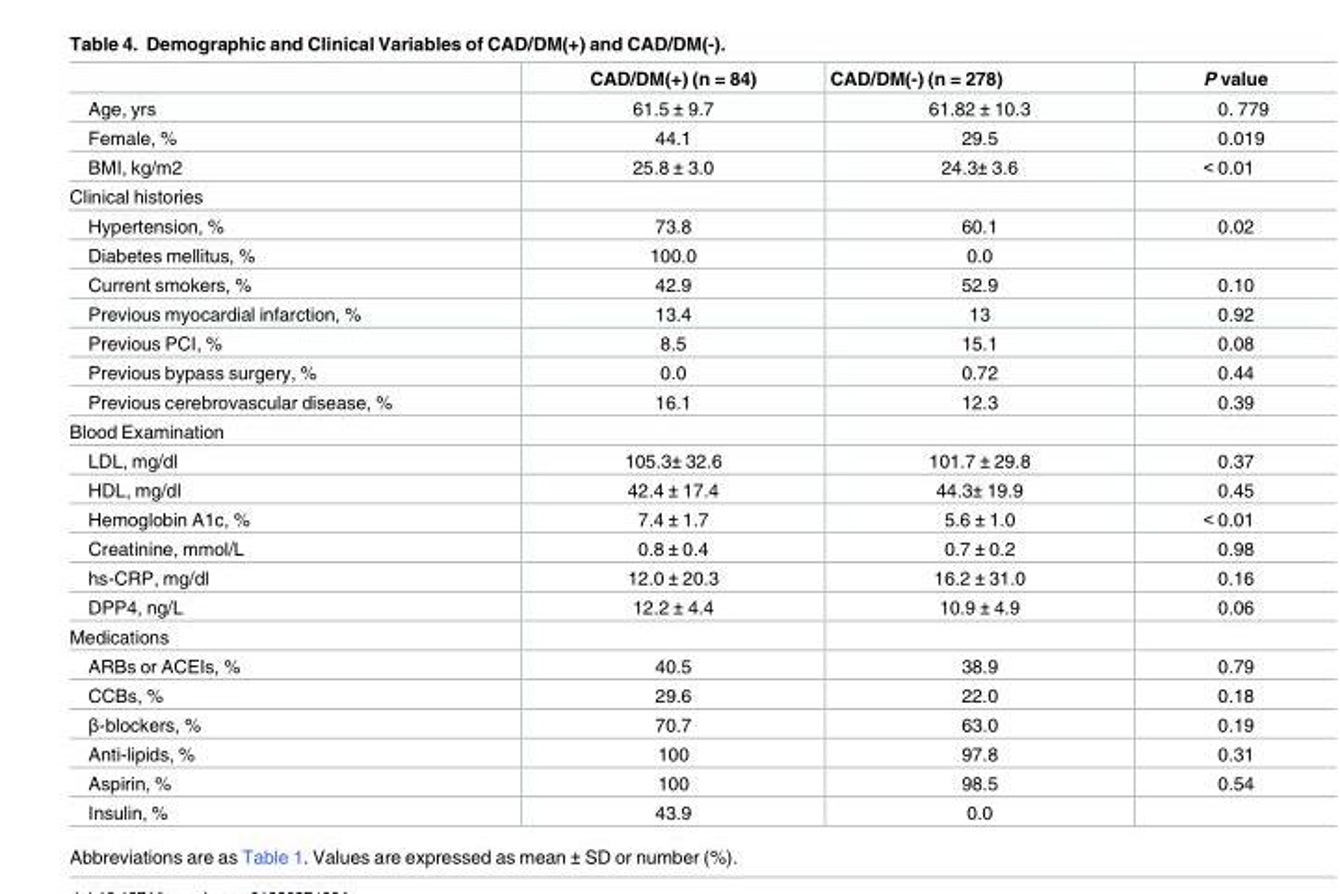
<table><thead><tr><td></td><td>CAD/DM(+) (n = 84)</td><td>CAD/DM(-) (n = 278)</td><td>P value</td></tr></thead><tbody><tr><td>Age, yrs</td><td>61.5 ± 9.7</td><td>61.82 ± 10.3</td><td>0. 779</td></tr><tr><td>Female, %</td><td>44.1</td><td>29.5</td><td>0.019</td></tr><tr><td>BMI, kg/m2</td><td>25.8 ± 3.0</td><td>24.3± 3.6</td><td>&lt; 0.01</td></tr><tr><td colspan="4">Clinical histories</td></tr><tr><td>Hypertension, %</td><td>73.8</td><td>60.1</td><td>0.02</td></tr><tr><td>Diabetes mellitus, %</td><td>100.0</td><td>0.0</td><td></td></tr><tr><td>Current smokers, %</td><td>42.9</td><td>52.9</td><td>0.10</td></tr><tr><td>Previous myocardial infarction, %</td><td>13.4</td><td>13</td><td>0.92</td></tr><tr><td>Previous PCI, %</td><td>8.5</td><td>15.1</td><td>0.08</td></tr><tr><td>Previous bypass surgery, %</td><td>0.0</td><td>0.72</td><td>0.44</td></tr><tr><td>Previous cerebrovascular disease, %</td><td>16.1</td><td>12.3</td><td>0.39</td></tr><tr><td colspan="4">Blood Examination</td></tr><tr><td>LDL, mg/dl</td><td>105.3± 32.6</td><td>101.7 ± 29.8</td><td>0.37</td></tr><tr><td>HDL, mg/dl</td><td>42.4 ± 17.4</td><td>44.3± 19.9</td><td>0.45</td></tr><tr><td>Hemoglobin A1c, %</td><td>7.4 ± 1.7</td><td>5.6 ± 1.0</td><td>&lt; 0.01</td></tr><tr><td>Creatinine, mmol/L</td><td>0.8 ± 0.4</td><td>0.7 ± 0.2</td><td>0.98</td></tr><tr><td>hs-CRP, mg/dl</td><td>12.0 ± 20.3</td><td>16.2 ± 31.0</td><td>0.16</td></tr><tr><td>DPP4, ng/L</td><td>12.2 ± 4.4</td><td>10.9 ± 4.9</td><td>0.06</td></tr><tr><td colspan="4">Medications</td></tr><tr><td>ARBs or ACEIs, %</td><td>40.5</td><td>38.9</td><td>0.79</td></tr><tr><td>CCBs, %</td><td>29.6</td><td>22.0</td><td>0.18</td></tr><tr><td>β-blockers, %</td><td>70.7</td><td>63.0</td><td>0.19</td></tr><tr><td>Anti-lipids, %</td><td>100</td><td>97.8</td><td>0.31</td></tr><tr><td>Aspirin, %</td><td>100</td><td>98.5</td><td>0.54</td></tr><tr><td>Insulin, %</td><td>43.9</td><td>0.0</td><td></td></tr></tbody></table>